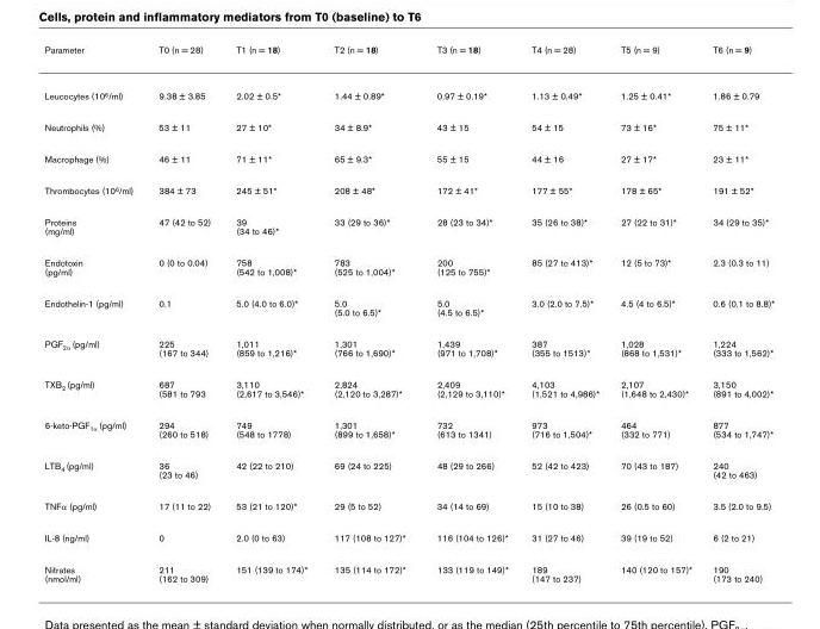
<table><thead><tr><td>Parameter</td><td>T0 (n = 28)</td><td>T1 (n = 18)</td><td>T2 (n = 18)</td><td>T3 (n = 18)</td><td>T4 (n = 28)</td><td>T5 (n = 9)</td><td>T6 (n = 9)</td></tr></thead><tbody><tr><td>Leucocytes (10<sup>6</sup>/ml)</td><td>9.38 ± 3.85</td><td>2.02 ± 0.5*</td><td>1.44 ± 0.89*</td><td>0.97 ± 0.19*</td><td>1.13 ± 0.49*</td><td>1.25 ± 0.41*</td><td>1.86 ± 0.79</td></tr><tr><td>Neutrophils (%)</td><td>53 ± 11</td><td>27 ± 10*</td><td>34 ± 8.9*</td><td>43 ± 15</td><td>54 ± 15</td><td>73 ± 16*</td><td>75 ± 11*</td></tr><tr><td>Macrophage (%)</td><td>46 ± 11</td><td>71 ± 11*</td><td>65 ± 9.3*</td><td>55 ± 15</td><td>44 ± 16</td><td>27 ± 17*</td><td>23 ± 11*</td></tr><tr><td>Thrombocytes (10<sup>6</sup>/ml)</td><td>384 ± 73</td><td>245 ± 51*</td><td>208 ± 48*</td><td>172 ± 41*</td><td>177 ± 55*</td><td>178 ± 65*</td><td>191 ± 52*</td></tr><tr><td>Proteins (mg/ml)</td><td>47 (42 to 52)</td><td>39 (34 to 46)*</td><td>33 (29 to 36)*</td><td>28 (23 to 34)*</td><td>35 (26 to 38)*</td><td>27 (22 to 31)*</td><td>34 (29 to 35)*</td></tr><tr><td>Endotoxin (pg/ml)</td><td>0 (0 to 0.04)</td><td>758 (542 to 1,008)*</td><td>783 (525 to 1,004)*</td><td>200 (125 to 755)*</td><td>85 (27 to 413)*</td><td>12 (5 to 73)*</td><td>2.3 (0.3 to 11)</td></tr><tr><td>Endothelin-1 (pg/ml)</td><td>0.1</td><td>5.0 (4.0 to 6.0)*</td><td>5.0 (5.0 to 6.5)*</td><td>5.0 (4.5 to 6.5)*</td><td>3.0 (2.0 to 7.5)*</td><td>4.5 (4 to 6.5)*</td><td>0.6 (0.1 to 8.8)*</td></tr><tr><td>PGF<sub>2α</sub> (pg/ml)</td><td>225 (167 to 344)</td><td>1,011 (859 to 1,216)*</td><td>1,301 (766 to 1,690)*</td><td>1,439 (971 to 1,708)*</td><td>387 (355 to 1513)*</td><td>1,028 (868 to 1,531)*</td><td>1,224 (333 to 1,562)*</td></tr><tr><td>TXB<sub>2</sub> (pg/ml)</td><td>687 (581 to 793</td><td>3,110 (2,617 to 3,546)*</td><td>2,824 (2,120 to 3,287)*</td><td>2,409 (2,129 to 3,110)*</td><td>4,103 (1,521 to 4,986)*</td><td>2,107 (1,648 to 2,430)*</td><td>3,150 (891 to 4,002)*</td></tr><tr><td>6-keto-PGF<sub>1α</sub> (pg/ml)</td><td>294 (260 to 518)</td><td>749 (548 to 1778)</td><td>1,301 (899 to 1,658)*</td><td>732 (613 to 1341)</td><td>973 (716 to 1,504)*</td><td>464 (332 to 771)</td><td>877 (534 to 1,747)*</td></tr><tr><td>LTB<sub>4</sub> (pg/ml)</td><td>36 (23 to 46)</td><td>42 (22 to 210)</td><td>69 (24 to 225)</td><td>48 (29 to 266)</td><td>52 (42 to 423)</td><td>70 (43 to 187)</td><td>240 (42 to 463)</td></tr><tr><td>TNFα (pg/ml)</td><td>17 (11 to 22)</td><td>53 (21 to 120)*</td><td>29 (5 to 52)</td><td>34 (14 to 69)</td><td>15 (10 to 38)</td><td>26 (0.5 to 60)</td><td>3.5 (2.0 to 9.5)</td></tr><tr><td>IL-8 (ng/ml)</td><td>0</td><td>2.0 (0 to 63)</td><td>117 (108 to 127)*</td><td>116 (104 to 126)*</td><td>31 (27 to 46)</td><td>39 (19 to 52)</td><td>6 (2 to 21)</td></tr><tr><td>Nitrates (nmol/ml)</td><td>211 (162 to 309)</td><td>151 (139 to 174)*</td><td>135 (114 to 172)*</td><td>133 (119 to 149)*</td><td>189 (147 to 237)</td><td>140 (120 to 157)*</td><td>190 (173 to 240)</td></tr></tbody></table>